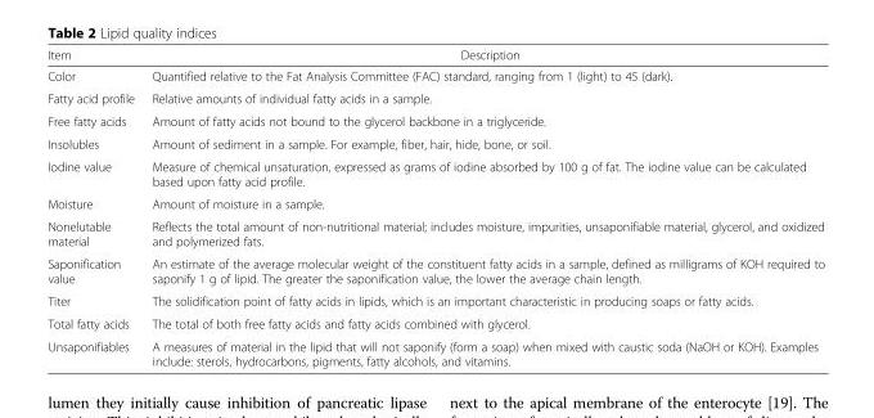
<table><thead><tr><td>Item</td><td>Description</td></tr></thead><tbody><tr><td>Color</td><td>Quantified relative to the Fat Analysis Committee (FAC) standard, ranging from 1 (light) to 45 (dark).</td></tr><tr><td>Fatty acid profile</td><td>Relative amounts of individual fatty acids in a sample.</td></tr><tr><td>Free fatty acids</td><td>Amount of fatty acids not bound to the glycerol backbone in a triglyceride.</td></tr><tr><td>Insolubles</td><td>Amount of sediment in a sample. For example, fiber, hair, hide, bone, or soil.</td></tr><tr><td>Iodine value</td><td>Measure of chemical unsaturation, expressed as grams of iodine absorbed by 100 g of fat. The iodine value can be calculated based upon fatty acid profile.</td></tr><tr><td>Moisture</td><td>Amount of moisture in a sample.</td></tr><tr><td>Nonelutable material</td><td>Reflects the total amount of non-nutritional material; includes moisture, impurities, unsaponifiable material, glycerol, and oxidized and polymerized fats.</td></tr><tr><td>Saponification value</td><td>An estimate of the average molecular weight of the constituent fatty acids in a sample, defined as milligrams of KOH required to saponify 1 g of lipid. The greater the saponification value, the lower the average chain length.</td></tr><tr><td>Titer</td><td>The solidification point of fatty acids in lipids, which is an important characteristic in producing soaps or fatty acids.</td></tr><tr><td>Total fatty acids</td><td>The total of both free fatty acids and fatty acids combined with glycerol.</td></tr><tr><td>Unsaponifiables</td><td>A measures of material in the lipid that will not saponify (form a soap) when mixed with caustic soda (NaOH or KOH). Examples include: sterols, hydrocarbons, pigments, fatty alcohols, and vitamins.</td></tr></tbody></table>